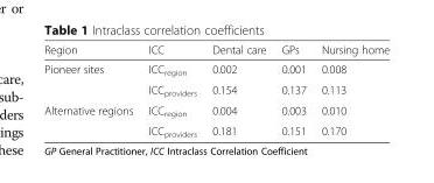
<table><thead><tr><td>Region</td><td>ICC</td><td>Dental care</td><td>GPs</td><td>Nursing home</td></tr></thead><tbody><tr><td rowspan="2">Pioneer sites</td><td>ICC<sub>region</sub></td><td>0.002</td><td>0.001</td><td>0.008</td></tr><tr><td>ICC<sub>providers</sub></td><td>0.154</td><td>0.137</td><td>0.113</td></tr><tr><td rowspan="2">Alternative regions</td><td>ICC<sub>region</sub></td><td>0.004</td><td>0.003</td><td>0.010</td></tr><tr><td>ICC<sub>providers</sub></td><td>0.181</td><td>0.151</td><td>0.170</td></tr></tbody></table>